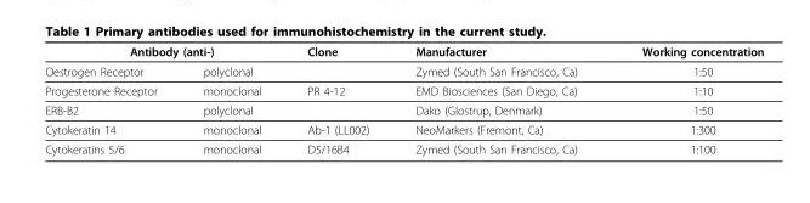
<table><thead><tr><td colspan="2">Antibody (anti-)</td><td rowspan="2">Clone</td><td rowspan="2">Manufacturer Zymed (South San Francisco, Ca)</td><td rowspan="2">Working concentration 1:50</td></tr><tr><td>Oestrogen Receptor</td><td>polyclonal</td></tr></thead><tbody><tr><td>Progesterone Receptor</td><td>monoclonal</td><td>PR 4-12</td><td>EMD Biosciences (San Diego, Ca)</td><td>1:10</td></tr><tr><td>ERB-B2</td><td>polyclonal</td><td></td><td>Dako (Glostrup, Denmark)</td><td>1:50</td></tr><tr><td>Cytokeratin 14</td><td>monoclonal</td><td>Ab-1 (LL002)</td><td>NeoMarkers (Fremont, Ca)</td><td>1:300</td></tr><tr><td>Cytokeratins 5/6</td><td>monoclonal</td><td>D5/16B4</td><td>Zymed (South San Francisco, Ca)</td><td>1:100</td></tr></tbody></table>